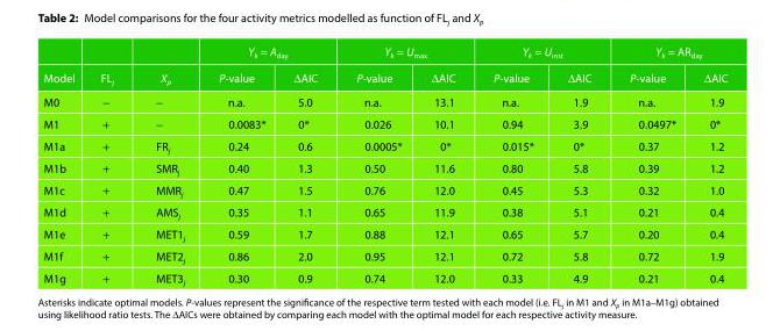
<table><thead><tr><td rowspan="2">Model</td><td rowspan="2">FL<sub>j</sub></td><td rowspan="2">X<sub>p</sub></td><td colspan="2">Y<sub>k</sub> = A<sub>day</sub></td><td colspan="2">Y<sub>k</sub> = U<sub>max</sub></td><td colspan="2">Y<sub>k</sub> = U<sub>inst</sub></td><td colspan="2">Y<sub>k</sub> = AR<sub>day</sub></td></tr><tr><td>P-value</td><td>ΔAIC</td><td>P-value</td><td>ΔAIC</td><td>P-value</td><td>ΔAIC</td><td>P-value</td><td>ΔAIC</td></tr></thead><tbody><tr><td>M0</td><td>−</td><td>−</td><td>n.a.</td><td>5.0</td><td>n.a.</td><td>13.1</td><td>n.a.</td><td>1.9</td><td>n.a.</td><td>1.9</td></tr><tr><td>M1</td><td>+</td><td>−</td><td>0.0083*</td><td>0*</td><td>0.026</td><td>10.1</td><td>0.94</td><td>3.9</td><td>0.0497*</td><td>0*</td></tr><tr><td>M1a</td><td>+</td><td>FR<sub>j</sub></td><td>0.24</td><td>0.6</td><td>0.0005*</td><td>0*</td><td>0.015*</td><td>0*</td><td>0.37</td><td>1.2</td></tr><tr><td>M1b</td><td>+</td><td>SMR<sub>j</sub></td><td>0.40</td><td>1.3</td><td>0.50</td><td>11.6</td><td>0.80</td><td>5.8</td><td>0.39</td><td>1.2</td></tr><tr><td>M1c</td><td>+</td><td>MMR<sub>j</sub></td><td>0.47</td><td>1.5</td><td>0.76</td><td>12.0</td><td>0.45</td><td>5.3</td><td>0.32</td><td>1.0</td></tr><tr><td>M1d</td><td>+</td><td>AMS<sub>j</sub></td><td>0.35</td><td>1.1</td><td>0.65</td><td>11.9</td><td>0.38</td><td>5.1</td><td>0.21</td><td>0.4</td></tr><tr><td>M1e</td><td>+</td><td>MET1<sub>j</sub></td><td>0.59</td><td>1.7</td><td>0.88</td><td>12.1</td><td>0.65</td><td>5.7</td><td>0.20</td><td>0.4</td></tr><tr><td>M1f</td><td>+</td><td>MET2<sub>j</sub></td><td>0.86</td><td>2.0</td><td>0.95</td><td>12.1</td><td>0.72</td><td>5.8</td><td>0.72</td><td>1.9</td></tr><tr><td>M1g</td><td>+</td><td>MET3<sub>j</sub></td><td>0.30</td><td>0.9</td><td>0.74</td><td>12.0</td><td>0.33</td><td>4.9</td><td>0.21</td><td>0.4</td></tr></tbody></table>